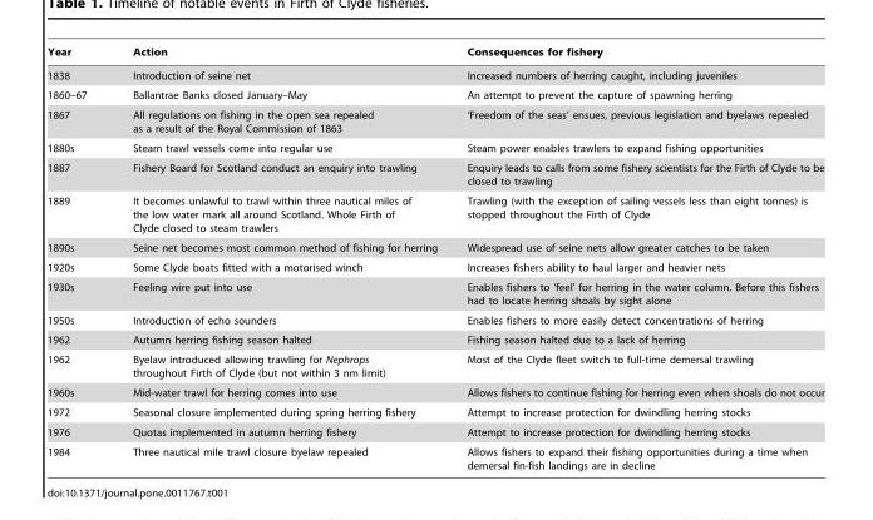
<table><thead><tr><td>Year</td><td>Action</td><td>Consequences for fishery</td></tr></thead><tbody><tr><td>1838</td><td>Introduction of seine net</td><td>Increased numbers of herring caught, including juveniles</td></tr><tr><td>1860–67</td><td>Ballantrae Banks closed January–May</td><td>An attempt to prevent the capture of spawning herring</td></tr><tr><td>1867</td><td>All regulations on fishing in the open sea repealed as a result of the Royal Commission of 1863</td><td>‘Freedom of the seas’ ensues, previous legislation and byelaws repealed</td></tr><tr><td>1880s</td><td>Steam trawl vessels come into regular use</td><td>Steam power enables trawlers to expand fishing opportunities</td></tr><tr><td>1887</td><td>Fishery Board for Scotland conduct an enquiry into trawling</td><td>Enquiry leads to calls from some fishery scientists for the Firth of Clyde to be closed to trawling</td></tr><tr><td>1889</td><td>It becomes unlawful to trawl within three nautical miles of the low water mark all around Scotland. Whole Firth of Clyde closed to steam trawlers</td><td>Trawling (with the exception of sailing vessels less than eight tonnes) is stopped throughout the Firth of Clyde</td></tr><tr><td>1890s</td><td>Seine net becomes most common method of fishing for herring</td><td>Widespread use of seine nets allow greater catches to be taken</td></tr><tr><td>1920s</td><td>Some Clyde boats fitted with a motorised winch</td><td>Increases fishers ability to haul larger and heavier nets</td></tr><tr><td>1930s</td><td>Feeling wire put into use</td><td>Enables fishers to ‘feel’ for herring in the water column. Before this fishers had to locate herring shoals by sight alone</td></tr><tr><td>1950s</td><td>Introduction of echo sounders</td><td>Enables fishers to more easily detect concentrations of herring</td></tr><tr><td>1962</td><td>Autumn herring fishing season halted</td><td>Fishing season halted due to a lack of herring</td></tr><tr><td>1962</td><td>Byelaw introduced allowing trawling for Nephrops throughout Firth of Clyde (but not within 3 nm limit)</td><td>Most of the Clyde fleet switch to full-time demersal trawling</td></tr><tr><td>1960s</td><td>Mid-water trawl for herring comes into use</td><td>Allows fishers to continue fishing for herring even when shoals do not occur</td></tr><tr><td>1972</td><td>Seasonal closure implemented during spring herring fishery</td><td>Attempt to increase protection for dwindling herring stocks</td></tr><tr><td>1976</td><td>Quotas implemented in autumn herring fishery</td><td>Attempt to increase protection for dwindling herring stocks</td></tr><tr><td>1984</td><td>Three nautical mile trawl closure byelaw repealed</td><td>Allows fishers to expand their fishing opportunities during a time when demersal fin-fish landings are in decline</td></tr></tbody></table>